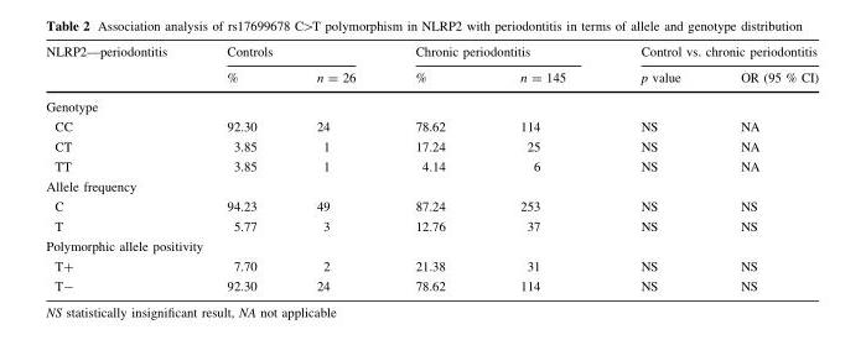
<table><thead><tr><td rowspan="2">NLRP2—periodontitis</td><td colspan="2">Controls</td><td colspan="2">Chronic periodontitis</td><td colspan="2">Control vs. chronic periodontitis</td></tr><tr><td>%</td><td>n = 26</td><td>%</td><td>n = 145</td><td>p value</td><td>OR (95 % CI)</td></tr></thead><tbody><tr><td colspan="7">Genotype</td></tr><tr><td>CC</td><td>92.30</td><td>24</td><td>78.62</td><td>114</td><td>NS</td><td>NA</td></tr><tr><td>CT</td><td>3.85</td><td>1</td><td>17.24</td><td>25</td><td>NS</td><td>NA</td></tr><tr><td>TT</td><td>3.85</td><td>1</td><td>4.14</td><td>6</td><td>NS</td><td>NA</td></tr><tr><td colspan="7">Allele frequency</td></tr><tr><td>C</td><td>94.23</td><td>49</td><td>87.24</td><td>253</td><td>NS</td><td>NS</td></tr><tr><td>T</td><td>5.77</td><td>3</td><td>12.76</td><td>37</td><td>NS</td><td>NS</td></tr><tr><td colspan="7">Polymorphic allele positivity</td></tr><tr><td>T+</td><td>7.70</td><td>2</td><td>21.38</td><td>31</td><td>NS</td><td>NS</td></tr><tr><td>T-</td><td>92.30</td><td>24</td><td>78.62</td><td>114</td><td>NS</td><td>NS</td></tr></tbody></table>